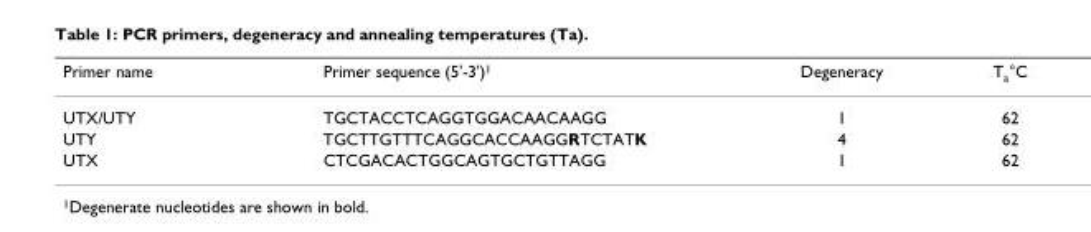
<table><thead><tr><td>Primer name</td><td>Primer sequence (5&#x27;-3&#x27;)1</td><td>Degeneracy</td><td>Ta°C</td></tr></thead><tbody><tr><td>UTX/UTY</td><td>TGCTACCTCAGGTGGACAACAAGG</td><td>1</td><td>62</td></tr><tr><td>UTY</td><td>TGCTTGTTTCAGGCACCAAGGRTCTATK</td><td>4</td><td>62</td></tr><tr><td>UTX</td><td>CTCGACACTGGCAGTGCTGTTAGG</td><td>1</td><td>62</td></tr></tbody></table>